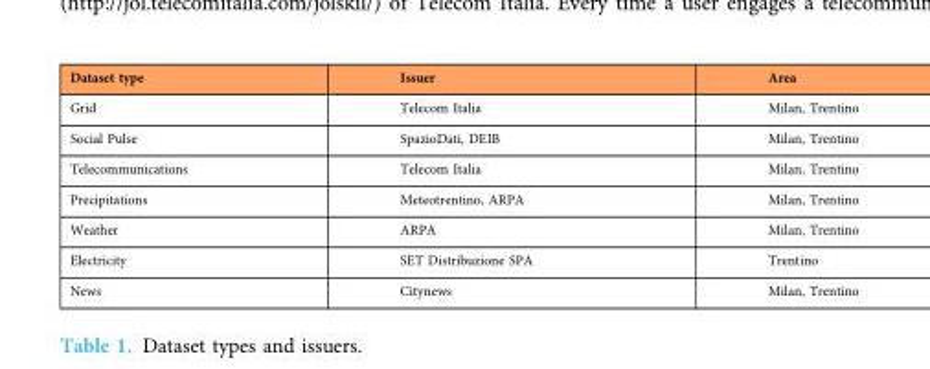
<table><thead><tr><td>Dataset type</td><td>Issuer</td><td>Area</td></tr></thead><tbody><tr><td>Grid</td><td>Telecom Italia</td><td>Milan, Trentino</td></tr><tr><td>Social Pulse</td><td>SpazioDati, DEIB</td><td>Milan, Trentino</td></tr><tr><td>Telecommunications</td><td>Telecom Italia</td><td>Milan, Trentino</td></tr><tr><td>Precipitations</td><td>Meteotrentino, ARPA</td><td>Milan, Trentino</td></tr><tr><td>Weather</td><td>ARPA</td><td>Milan, Trentino</td></tr><tr><td>Electricity</td><td>SET Distribuzione SPA</td><td>Trentino</td></tr><tr><td>News</td><td>Citynews</td><td>Milan, Trentino</td></tr></tbody></table>